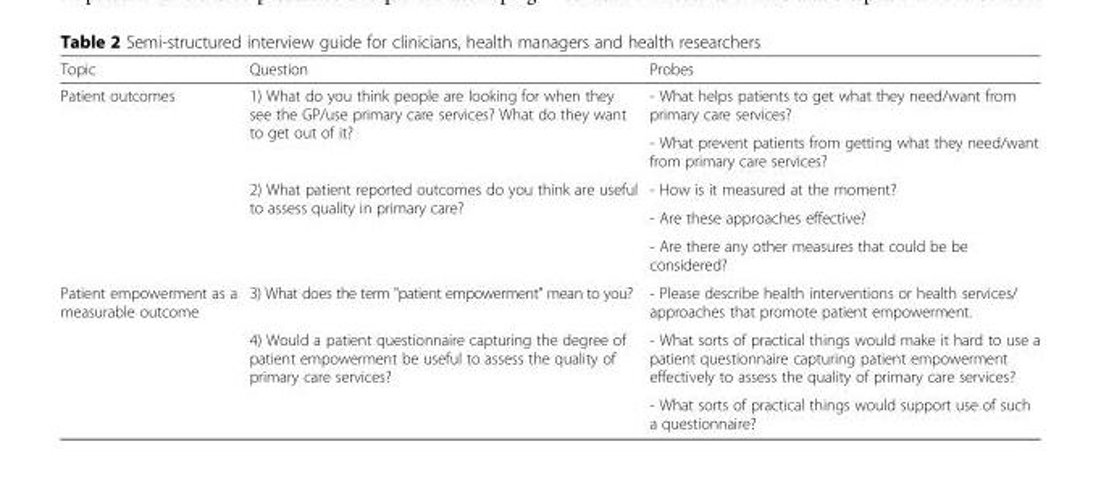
<table><thead><tr><td>Topic</td><td>Question</td><td>Probes</td></tr></thead><tbody><tr><td rowspan="5">Patient outcomes</td><td rowspan="2">1) What do you think people are looking for when they see the GP/use primary care services? What do they want to get out of it?</td><td>- What helps patients to get what they need/want from primary care services?</td></tr><tr><td>- What prevent patients from getting what they need/want from primary care services?</td></tr><tr><td rowspan="3">2) What patient reported outcomes do you think are useful to assess quality in primary care?</td><td>- How is it measured at the moment?</td></tr><tr><td>- Are these approaches effective?</td></tr><tr><td>- Are there any other measures that could be be considered?</td></tr><tr><td rowspan="3">Patient empowerment as a measurable outcome</td><td>3) What does the term &quot;patient empowerment&quot; mean to you?</td><td>- Please describe health interventions or health services/ approaches that promote patient empowerment.</td></tr><tr><td rowspan="2">4) Would a patient questionnaire capturing the degree of patient empowerment be useful to assess the quality of primary care services?</td><td>- What sorts of practical things would make it hard to use a patient questionnaire capturing patient empowerment effectively to assess the quality of primary care services?</td></tr><tr><td>- What sorts of practical things would support use of such a questionnaire?</td></tr></tbody></table>